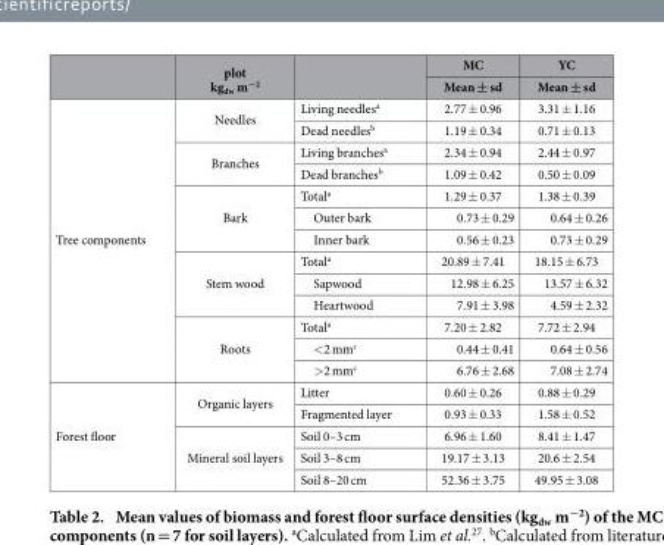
<table><thead><tr><td rowspan="2"></td><td rowspan="2">plot kg<sub>dw</sub> m<sup>−2</sup></td><td rowspan="2"></td><td rowspan="2">MC Mean ± sd</td><td rowspan="2">YC Mean ± sd</td></tr><tr></tr></thead><tbody><tr><td rowspan="13">Tree components</td><td rowspan="2">Needles</td><td>Living needles<sup>a</sup></td><td>2.77 ± 0.96</td><td>3.31 ± 1.16</td></tr><tr><td>Dead needles<sup>b</sup></td><td>1.19 ± 0.34</td><td>0.71 ± 0.13</td></tr><tr><td rowspan="2">Branches</td><td>Living branches<sup>a</sup></td><td>2.34 ± 0.94</td><td>2.44 ± 0.97</td></tr><tr><td>Dead branches<sup>b</sup></td><td>1.09 ± 0.42</td><td>0.50 ± 0.09</td></tr><tr><td rowspan="3">Bark</td><td>Total<sup>a</sup></td><td>1.29 ± 0.37</td><td>1.38 ± 0.39</td></tr><tr><td>Outer bark</td><td>0.73 ± 0.29</td><td>0.64 ± 0.26</td></tr><tr><td>Inner bark</td><td>0.56 ± 0.23</td><td>0.73 ± 0.29</td></tr><tr><td rowspan="3">Stem wood</td><td>Total<sup>a</sup></td><td>20.89 ± 7.41</td><td>18.15 ± 6.73</td></tr><tr><td>Sapwood</td><td>12.98 ± 6.25</td><td>13.57 ± 6.32</td></tr><tr><td>Heartwood</td><td>7.91 ± 3.98</td><td>4.59 ± 2.32</td></tr><tr><td rowspan="3">Roots</td><td>Total<sup>a</sup></td><td>7.20 ± 2.82</td><td>7.72 ± 2.94</td></tr><tr><td>&lt; 2 mm<sup>c</sup></td><td>0.44 ± 0.41</td><td>0.64 ± 0.56</td></tr><tr><td>&gt; 2 mm<sup>c</sup></td><td>6.76 ± 2.68</td><td>7.08 ± 2.74</td></tr><tr><td rowspan="5">Forest floor</td><td rowspan="2">Organic layers</td><td>Litter</td><td>0.60 ± 0.26</td><td>0.88 ± 0.29</td></tr><tr><td>Fragmented layer</td><td>0.93 ± 0.33</td><td>1.58 ± 0.52</td></tr><tr><td rowspan="3">Mineral soil layers</td><td>Soil 0–3 cm</td><td>6.96 ± 1.60</td><td>8.41 ± 1.47</td></tr><tr><td>Soil 3–8 cm</td><td>19.17 ± 3.13</td><td>20.6 ± 2.54</td></tr><tr><td>Soil 8–20 cm</td><td>52.36 ± 3.75</td><td>49.95 ± 3.08</td></tr></tbody></table>